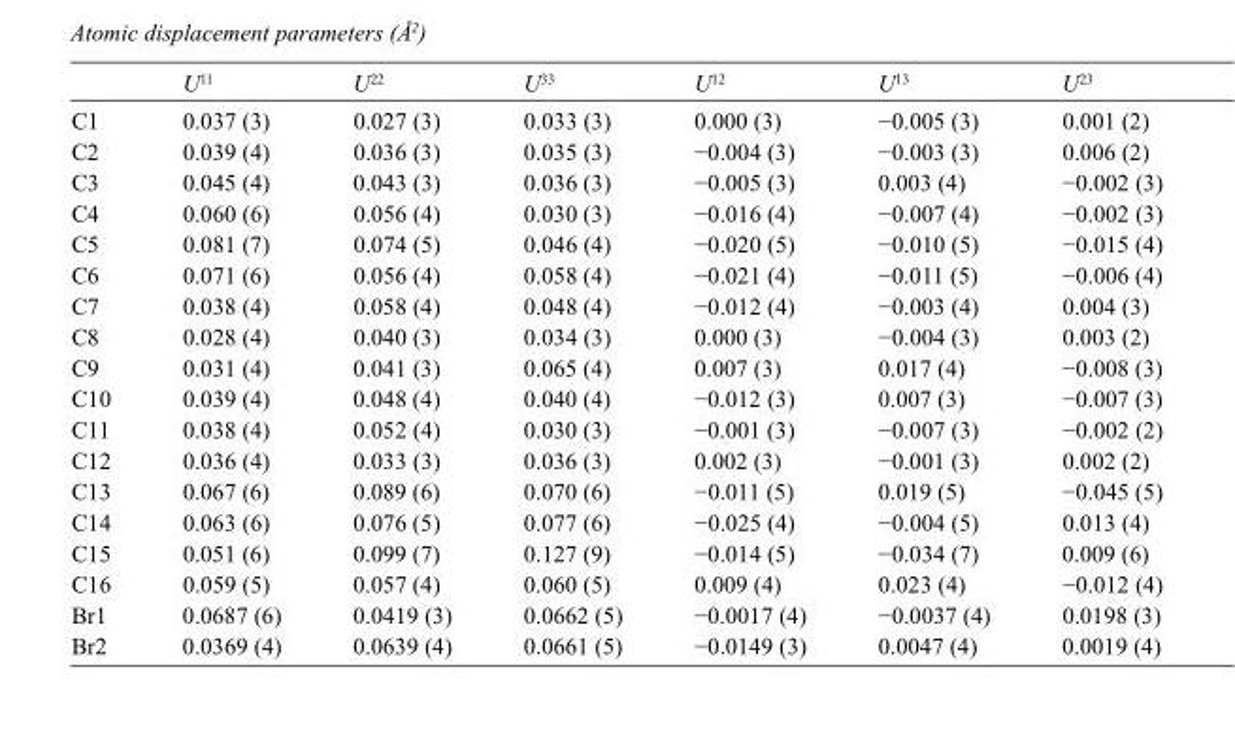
<table><thead><tr><td></td><td>U<sup>11</sup></td><td>U<sup>22</sup></td><td>U<sup>33</sup></td><td>U<sup>12</sup></td><td>U<sup>13</sup></td><td>U<sup>23</sup></td></tr></thead><tbody><tr><td>C1</td><td>0.037 (3)</td><td>0.027 (3)</td><td>0.033 (3)</td><td>0.000 (3)</td><td>−0.005 (3)</td><td>0.001 (2)</td></tr><tr><td>C2</td><td>0.039 (4)</td><td>0.036 (3)</td><td>0.035 (3)</td><td>−0.004 (3)</td><td>−0.003 (3)</td><td>0.006 (2)</td></tr><tr><td>C3</td><td>0.045 (4)</td><td>0.043 (3)</td><td>0.036 (3)</td><td>−0.005 (3)</td><td>0.003 (4)</td><td>−0.002 (3)</td></tr><tr><td>C4</td><td>0.060 (6)</td><td>0.056 (4)</td><td>0.030 (3)</td><td>−0.016 (4)</td><td>−0.007 (4)</td><td>−0.002 (3)</td></tr><tr><td>C5</td><td>0.081 (7)</td><td>0.074 (5)</td><td>0.046 (4)</td><td>−0.020 (5)</td><td>−0.010 (5)</td><td>−0.015 (4)</td></tr><tr><td>C6</td><td>0.071 (6)</td><td>0.056 (4)</td><td>0.058 (4)</td><td>−0.021 (4)</td><td>−0.011 (5)</td><td>−0.006 (4)</td></tr><tr><td>C7</td><td>0.038 (4)</td><td>0.058 (4)</td><td>0.048 (4)</td><td>−0.012 (4)</td><td>−0.003 (4)</td><td>0.004 (3)</td></tr><tr><td>C8</td><td>0.028 (4)</td><td>0.040 (3)</td><td>0.034 (3)</td><td>0.000 (3)</td><td>−0.004 (3)</td><td>0.003 (2)</td></tr><tr><td>C9</td><td>0.031 (4)</td><td>0.041 (3)</td><td>0.065 (4)</td><td>0.007 (3)</td><td>0.017 (4)</td><td>−0.008 (3)</td></tr><tr><td>C10</td><td>0.039 (4)</td><td>0.048 (4)</td><td>0.040 (4)</td><td>−0.012 (3)</td><td>0.007 (3)</td><td>−0.007 (3)</td></tr><tr><td>C11</td><td>0.038 (4)</td><td>0.052 (4)</td><td>0.030 (3)</td><td>−0.001 (3)</td><td>−0.007 (3)</td><td>−0.002 (2)</td></tr><tr><td>C12</td><td>0.036 (4)</td><td>0.033 (3)</td><td>0.036 (3)</td><td>0.002 (3)</td><td>−0.001 (3)</td><td>0.002 (2)</td></tr><tr><td>C13</td><td>0.067 (6)</td><td>0.089 (6)</td><td>0.070 (6)</td><td>−0.011 (5)</td><td>0.019 (5)</td><td>−0.045 (5)</td></tr><tr><td>C14</td><td>0.063 (6)</td><td>0.076 (5)</td><td>0.077 (6)</td><td>−0.025 (4)</td><td>−0.004 (5)</td><td>0.013 (4)</td></tr><tr><td>C15</td><td>0.051 (6)</td><td>0.099 (7)</td><td>0.127 (9)</td><td>−0.014 (5)</td><td>−0.034 (7)</td><td>0.009 (6)</td></tr><tr><td>C16</td><td>0.059 (5)</td><td>0.057 (4)</td><td>0.060 (5)</td><td>0.009 (4)</td><td>0.023 (4)</td><td>−0.012 (4)</td></tr><tr><td>Br1</td><td>0.0687 (6)</td><td>0.0419 (3)</td><td>0.0662 (5)</td><td>−0.0017 (4)</td><td>−0.0037 (4)</td><td>0.0198 (3)</td></tr><tr><td>Br2</td><td>0.0369 (4)</td><td>0.0639 (4)</td><td>0.0661 (5)</td><td>−0.0149 (3)</td><td>0.0047 (4)</td><td>0.0019 (4)</td></tr></tbody></table>